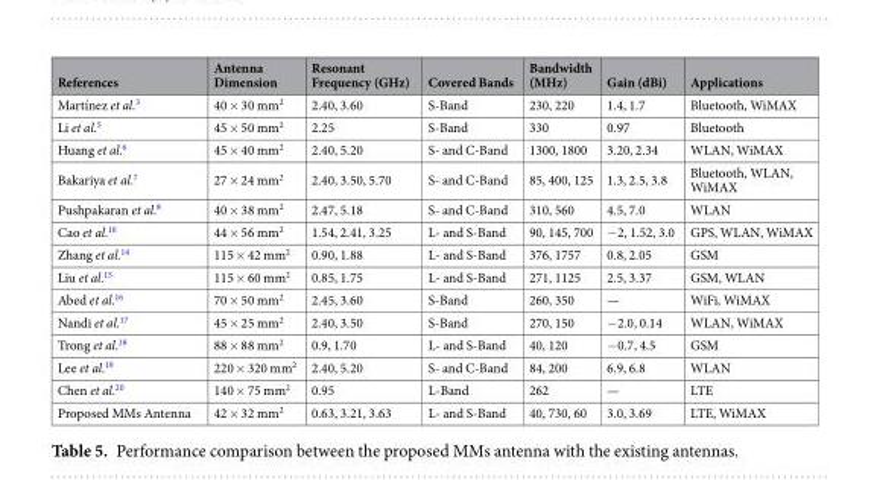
<table><thead><tr><td>References</td><td>Antenna Dimension</td><td>Resonant Frequency (GHz)</td><td>Covered Bands</td><td>Bandwidth (MHz)</td><td>Gain (dBi)</td><td>Applications</td></tr></thead><tbody><tr><td>Martínez et al.<sup>3</sup></td><td>40 × 30 mm<sup>2</sup></td><td>2.40, 3.60</td><td>S-Band</td><td>230, 220</td><td>1.4, 1.7</td><td>Bluetooth, WiMAX</td></tr><tr><td>Li et al.<sup>5</sup></td><td>45 × 50 mm<sup>2</sup></td><td>2.25</td><td>S-Band</td><td>330</td><td>0.97</td><td>Bluetooth</td></tr><tr><td>Huang et al.<sup>6</sup></td><td>45 × 40 mm<sup>2</sup></td><td>2.40, 5.20</td><td>S- and C-Band</td><td>1300, 1800</td><td>3.20, 2.34</td><td>WLAN, WiMAX</td></tr><tr><td>Bakariya et al.<sup>7</sup></td><td>27 × 24 mm<sup>2</sup></td><td>2.40, 3.50, 5.70</td><td>S- and C-Band</td><td>85, 400, 125</td><td>1.3, 2.5, 3.8</td><td>Bluetooth, WLAN, WiMAX</td></tr><tr><td>Pushpakaran et al.<sup>8</sup></td><td>40 × 38 mm<sup>2</sup></td><td>2.47, 5.18</td><td>S- and C-Band</td><td>310, 560</td><td>4.5, 7.0</td><td>WLAN</td></tr><tr><td>Cao et al.<sup>10</sup></td><td>44 × 56 mm<sup>2</sup></td><td>1.54, 2.41, 3.25</td><td>L- and S-Band</td><td>90, 145, 700</td><td>−2, 1.52, 3.0</td><td>GPS, WLAN, WiMAX</td></tr><tr><td>Zhang et al.<sup>14</sup></td><td>115 × 42 mm<sup>2</sup></td><td>0.90, 1.88</td><td>L- and S-Band</td><td>376, 1757</td><td>0.8, 2.05</td><td>GSM</td></tr><tr><td>Liu et al.<sup>15</sup></td><td>115 × 60 mm<sup>2</sup></td><td>0.85, 1.75</td><td>L- and S-Band</td><td>271, 1125</td><td>2.5, 3.37</td><td>GSM, WLAN</td></tr><tr><td>Abed et al.<sup>16</sup></td><td>70 × 50 mm<sup>2</sup></td><td>2.45, 3.60</td><td>S-Band</td><td>260, 350</td><td>—</td><td>WiFi, WiMAX</td></tr><tr><td>Nandi et al.<sup>17</sup></td><td>45 × 25 mm<sup>2</sup></td><td>2.40, 3.50</td><td>S-Band</td><td>270, 150</td><td>−2.0, 0.14</td><td>WLAN, WiMAX</td></tr><tr><td>Trong et al.<sup>18</sup></td><td>88 × 88 mm<sup>2</sup></td><td>0.9, 1.70</td><td>L- and S-Band</td><td>40, 120</td><td>−0.7, 4.5</td><td>GSM</td></tr><tr><td>Lee et al.<sup>19</sup></td><td>220 × 320 mm<sup>2</sup></td><td>2.40, 5.20</td><td>S- and C-Band</td><td>84, 200</td><td>6.9, 6.8</td><td>WLAN</td></tr><tr><td>Chen et al.<sup>20</sup></td><td>140 × 75 mm<sup>2</sup></td><td>0.95</td><td>L-Band</td><td>262</td><td>—</td><td>LTE</td></tr><tr><td>Proposed MMs Antenna</td><td>42 × 32 mm<sup>2</sup></td><td>0.63, 3.21, 3.63</td><td>L- and S-Band</td><td>40, 730, 60</td><td>3.0, 3.69</td><td>LTE, WiMAX</td></tr></tbody></table>